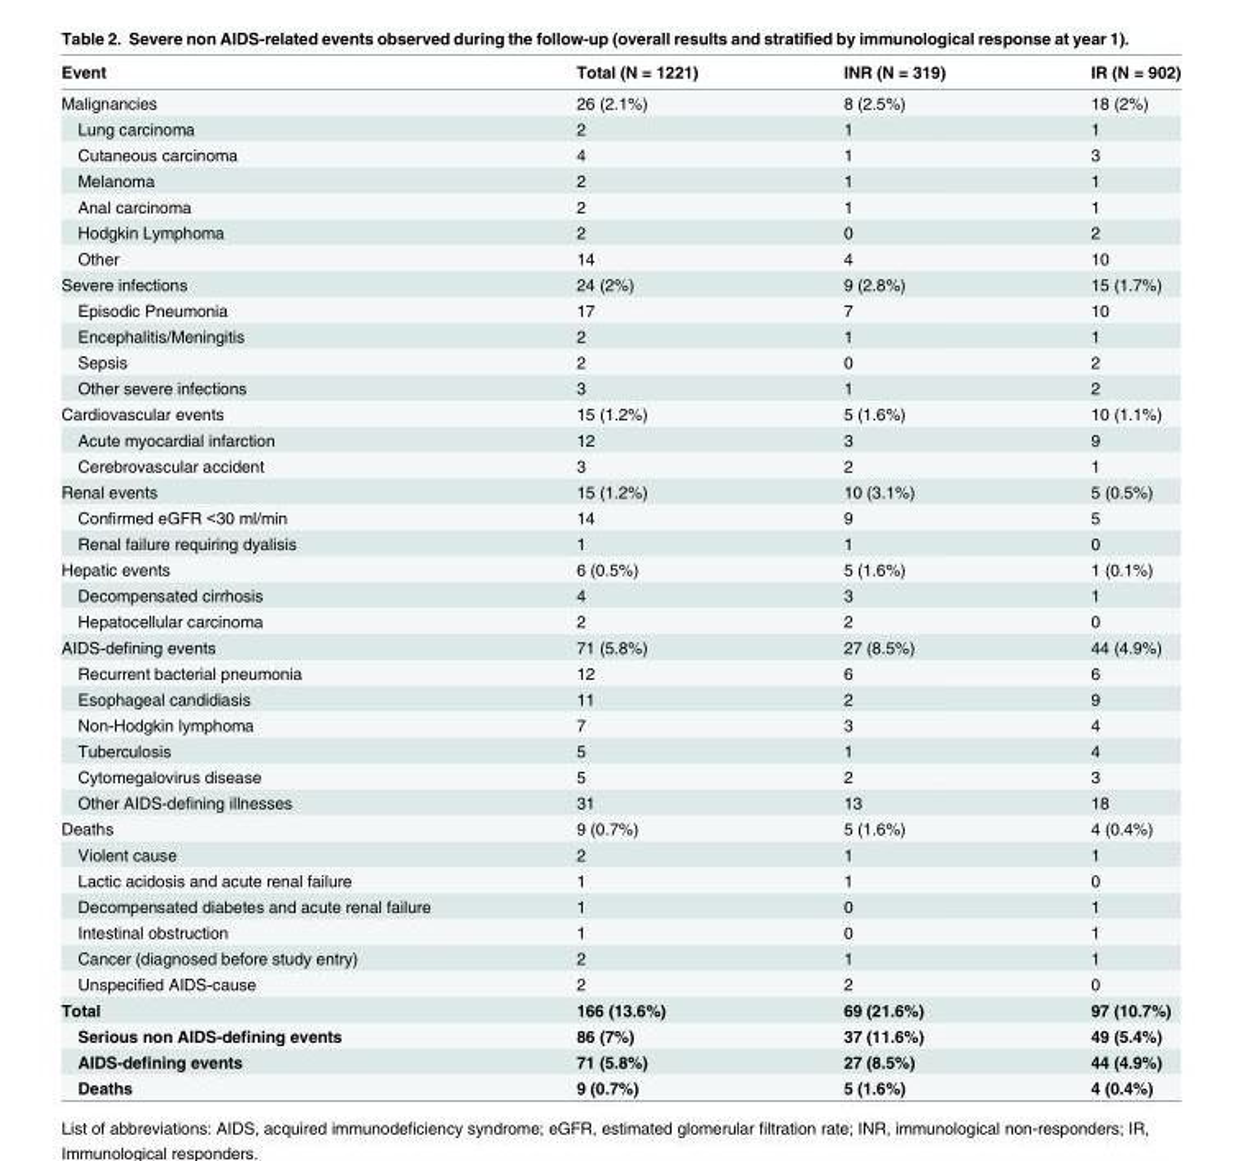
<table><thead><tr><td>Event</td><td>Total (N = 1221)</td><td>INR (N = 319)</td><td>IR (N = 902)</td></tr></thead><tbody><tr><td>Malignancies</td><td>26 (2.1%)</td><td>8 (2.5%)</td><td>18 (2%)</td></tr><tr><td>Lung carcinoma</td><td>2</td><td>1</td><td>1</td></tr><tr><td>Cutaneous carcinoma</td><td>4</td><td>1</td><td>3</td></tr><tr><td>Melanoma</td><td>2</td><td>1</td><td>1</td></tr><tr><td>Anal carcinoma</td><td>2</td><td>1</td><td>1</td></tr><tr><td>Hodgkin Lymphoma</td><td>2</td><td>0</td><td>2</td></tr><tr><td>Other</td><td>14</td><td>4</td><td>10</td></tr><tr><td>Severe infections</td><td>24 (2%)</td><td>9 (2.8%)</td><td>15 (1.7%)</td></tr><tr><td>Episodic Pneumonia</td><td>17</td><td>7</td><td>10</td></tr><tr><td>Encephalitis/Meningitis</td><td>2</td><td>1</td><td>1</td></tr><tr><td>Sepsis</td><td>2</td><td>0</td><td>2</td></tr><tr><td>Other severe infections</td><td>3</td><td>1</td><td>2</td></tr><tr><td>Cardiovascular events</td><td>15 (1.2%)</td><td>5 (1.6%)</td><td>10 (1.1%)</td></tr><tr><td>Acute myocardial infarction</td><td>12</td><td>3</td><td>9</td></tr><tr><td>Cerebrovascular accident</td><td>3</td><td>2</td><td>1</td></tr><tr><td>Renal events</td><td>15 (1.2%)</td><td>10 (3.1%)</td><td>5 (0.5%)</td></tr><tr><td>Confirmed eGFR &lt;30 ml/min</td><td>14</td><td>9</td><td>5</td></tr><tr><td>Renal failure requiring dyalisis</td><td>1</td><td>1</td><td>0</td></tr><tr><td>Hepatic events</td><td>6 (0.5%)</td><td>5 (1.6%)</td><td>1 (0.1%)</td></tr><tr><td>Decompensated cirrhosis</td><td>4</td><td>3</td><td>1</td></tr><tr><td>Hepatocellular carcinoma</td><td>2</td><td>2</td><td>0</td></tr><tr><td>AIDS-defining events</td><td>71 (5.8%)</td><td>27 (8.5%)</td><td>44 (4.9%)</td></tr><tr><td>Recurrent bacterial pneumonia</td><td>12</td><td>6</td><td>6</td></tr><tr><td>Esophageal candidiasis</td><td>11</td><td>2</td><td>9</td></tr><tr><td>Non-Hodgkin lymphoma</td><td>7</td><td>3</td><td>4</td></tr><tr><td>Tuberculosis</td><td>5</td><td>1</td><td>4</td></tr><tr><td>Cytomegalovirus disease</td><td>5</td><td>2</td><td>3</td></tr><tr><td>Other AIDS-defining illnesses</td><td>31</td><td>13</td><td>18</td></tr><tr><td>Deaths</td><td>9 (0.7%)</td><td>5 (1.6%)</td><td>4 (0.4%)</td></tr><tr><td>Violent cause</td><td>2</td><td>1</td><td>1</td></tr><tr><td>Lactic acidosis and acute renal failure</td><td>1</td><td>1</td><td>0</td></tr><tr><td>Decompensated diabetes and acute renal failure</td><td>1</td><td>0</td><td>1</td></tr><tr><td>Intestinal obstruction</td><td>1</td><td>0</td><td>1</td></tr><tr><td>Cancer (diagnosed before study entry)</td><td>2</td><td>1</td><td>1</td></tr><tr><td>Unspecified AIDS-cause</td><td>2</td><td>2</td><td>0</td></tr><tr><td>Total</td><td>166 (13.6%)</td><td>69 (21.6%)</td><td>97 (10.7%)</td></tr><tr><td>Serious non AIDS-defining events</td><td>86 (7%)</td><td>37 (11.6%)</td><td>49 (5.4%)</td></tr><tr><td>AIDS-defining events</td><td>71 (5.8%)</td><td>27 (8.5%)</td><td>44 (4.9%)</td></tr><tr><td>Deaths</td><td>9 (0.7%)</td><td>5 (1.6%)</td><td>4 (0.4%)</td></tr></tbody></table>